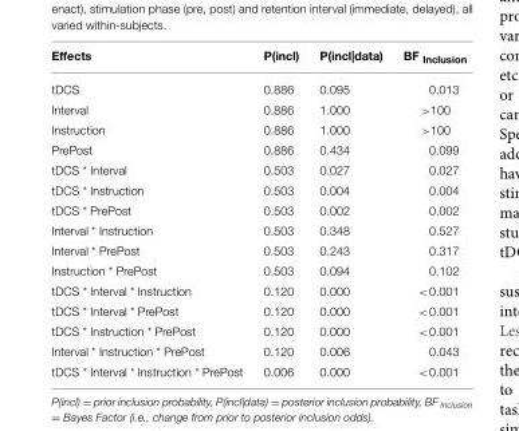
<table><thead><tr><td>Effects</td><td>P(incl)</td><td>P(incl|data)</td><td>BF <sub>Inclusion</sub></td></tr></thead><tbody><tr><td>tDCS</td><td>0.886</td><td>0.095</td><td>0.013</td></tr><tr><td>Interval</td><td>0.886</td><td>1.000</td><td>&gt;100</td></tr><tr><td>Instruction</td><td>0.886</td><td>1.000</td><td>&gt;100</td></tr><tr><td>PrePost</td><td>0.886</td><td>0.434</td><td>0.099</td></tr><tr><td>tDCS * Interval</td><td>0.503</td><td>0.027</td><td>0.027</td></tr><tr><td>tDCS * Instruction</td><td>0.503</td><td>0.004</td><td>0.004</td></tr><tr><td>tDCS * PrePost</td><td>0.503</td><td>0.002</td><td>0.002</td></tr><tr><td>Interval * Instruction</td><td>0.503</td><td>0.348</td><td>0.527</td></tr><tr><td>Interval * PrePost</td><td>0.503</td><td>0.243</td><td>0.317</td></tr><tr><td>Instruction * PrePost</td><td>0.503</td><td>0.094</td><td>0.102</td></tr><tr><td>tDCS * Interval * Instruction</td><td>0.120</td><td>0.000</td><td>&lt;0.001</td></tr><tr><td>tDCS * Interval * PrePost</td><td>0.120</td><td>0.000</td><td>&lt;0.001</td></tr><tr><td>tDCS * Instruction * PrePost</td><td>0.120</td><td>0.000</td><td>&lt;0.001</td></tr><tr><td>Interval * Instruction * PrePost</td><td>0.120</td><td>0.006</td><td>0.043</td></tr><tr><td>tDCS * Interval * Instruction * PrePost</td><td>0.006</td><td>0.000</td><td>&lt;0.001</td></tr></tbody></table>